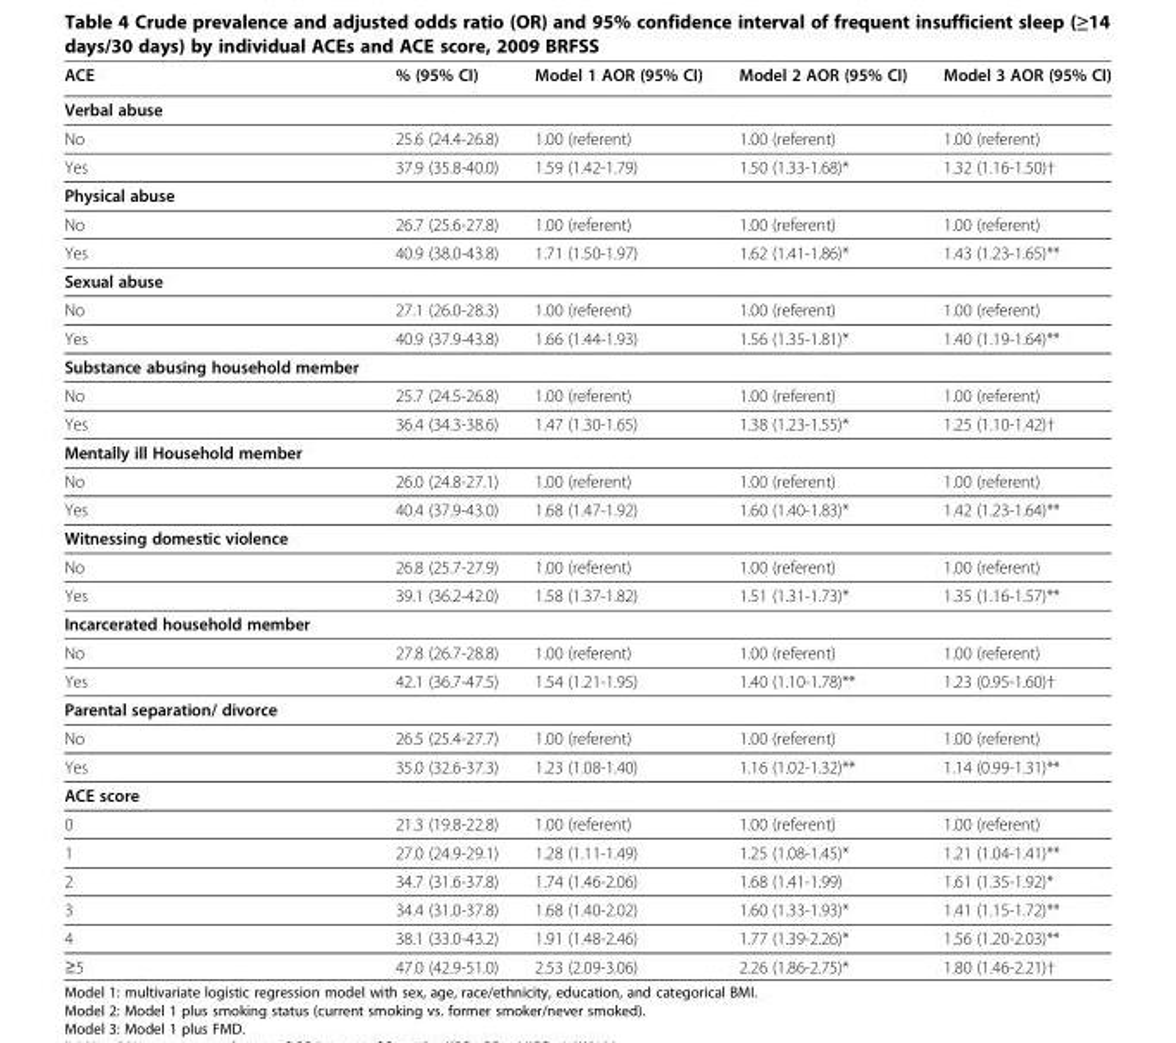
<table><thead><tr><td>ACE</td><td>% (95% CI)</td><td>Model 1 AOR (95% CI)</td><td>Model 2 AOR (95% CI)</td><td>Model 3 AOR (95% CI)</td></tr></thead><tbody><tr><td colspan="5">Verbal abuse</td></tr><tr><td>No</td><td>25.6 (24.4-26.8)</td><td>1.00 (referent)</td><td>1.00 (referent)</td><td>1.00 (referent)</td></tr><tr><td>Yes</td><td>37.9 (35.8-40.0)</td><td>1.59 (1.42-1.79)</td><td>1.50 (1.33-1.68)*</td><td>1.32 (1.16-1.50)†</td></tr><tr><td colspan="5">Physical abuse</td></tr><tr><td>No</td><td>26.7 (25.6-27.8)</td><td>1.00 (referent)</td><td>1.00 (referent)</td><td>1.00 (referent)</td></tr><tr><td>Yes</td><td>40.9 (38.0-43.8)</td><td>1.71 (1.50-1.97)</td><td>1.62 (1.41-1.86)*</td><td>1.43 (1.23-1.65)**</td></tr><tr><td colspan="5">Sexual abuse</td></tr><tr><td>No</td><td>27.1 (26.0-28.3)</td><td>1.00 (referent)</td><td>1.00 (referent)</td><td>1.00 (referent)</td></tr><tr><td>Yes</td><td>40.9 (37.9-43.8)</td><td>1.66 (1.44-1.93)</td><td>1.56 (1.35-1.81)*</td><td>1.40 (1.19-1.64)**</td></tr><tr><td colspan="5">Substance abusing household member</td></tr><tr><td>No</td><td>25.7 (24.5-26.8)</td><td>1.00 (referent)</td><td>1.00 (referent)</td><td>1.00 (referent)</td></tr><tr><td>Yes</td><td>36.4 (34.3-38.6)</td><td>1.47 (1.30-1.65)</td><td>1.38 (1.23-1.55)*</td><td>1.25 (1.10-1.42)†</td></tr><tr><td colspan="5">Mentally ill Household member</td></tr><tr><td>No</td><td>26.0 (24.8-27.1)</td><td>1.00 (referent)</td><td>1.00 (referent)</td><td>1.00 (referent)</td></tr><tr><td>Yes</td><td>40.4 (37.9-43.0)</td><td>1.68 (1.47-1.92)</td><td>1.60 (1.40-1.83)*</td><td>1.42 (1.23-1.64)**</td></tr><tr><td colspan="5">Witnessing domestic violence</td></tr><tr><td>No</td><td>26.8 (25.7-27.9)</td><td>1.00 (referent)</td><td>1.00 (referent)</td><td>1.00 (referent)</td></tr><tr><td>Yes</td><td>39.1 (36.2-42.0)</td><td>1.58 (1.37-1.82)</td><td>1.51 (1.31-1.73)*</td><td>1.35 (1.16-1.57)**</td></tr><tr><td colspan="5">Incarcerated household member</td></tr><tr><td>No</td><td>27.8 (26.7-28.8)</td><td>1.00 (referent)</td><td>1.00 (referent)</td><td>1.00 (referent)</td></tr><tr><td>Yes</td><td>42.1 (36.7-47.5)</td><td>1.54 (1.21-1.95)</td><td>1.40 (1.10-1.78)**</td><td>1.23 (0.95-1.60)†</td></tr><tr><td colspan="5">Parental separation/ divorce</td></tr><tr><td>No</td><td>26.5 (25.4-27.7)</td><td>1.00 (referent)</td><td>1.00 (referent)</td><td>1.00 (referent)</td></tr><tr><td>Yes</td><td>35.0 (32.6-37.3)</td><td>1.23 (1.08-1.40)</td><td>1.16 (1.02-1.32)**</td><td>1.14 (0.99-1.31)**</td></tr><tr><td colspan="5">ACE score</td></tr><tr><td>0</td><td>21.3 (19.8-22.8)</td><td>1.00 (referent)</td><td>1.00 (referent)</td><td>1.00 (referent)</td></tr><tr><td>1</td><td>27.0 (24.9-29.1)</td><td>1.28 (1.11-1.49)</td><td>1.25 (1.08-1.45)*</td><td>1.21 (1.04-1.41)**</td></tr><tr><td>2</td><td>34.7 (31.6-37.8)</td><td>1.74 (1.46-2.06)</td><td>1.68 (1.41-1.99)</td><td>1.61 (1.35-1.92)*</td></tr><tr><td>3</td><td>34.4 (31.0-37.8)</td><td>1.68 (1.40-2.02)</td><td>1.60 (1.33-1.93)*</td><td>1.41 (1.15-1.72)**</td></tr><tr><td>4</td><td>38.1 (33.0-43.2)</td><td>1.91 (1.48-2.46)</td><td>1.77 (1.39-2.26)*</td><td>1.56 (1.20-2.03)**</td></tr><tr><td>≥5</td><td>47.0 (42.9-51.0)</td><td>2.53 (2.09-3.06)</td><td>2.26 (1.86-2.75)*</td><td>1.80 (1.46-2.21)†</td></tr></tbody></table>